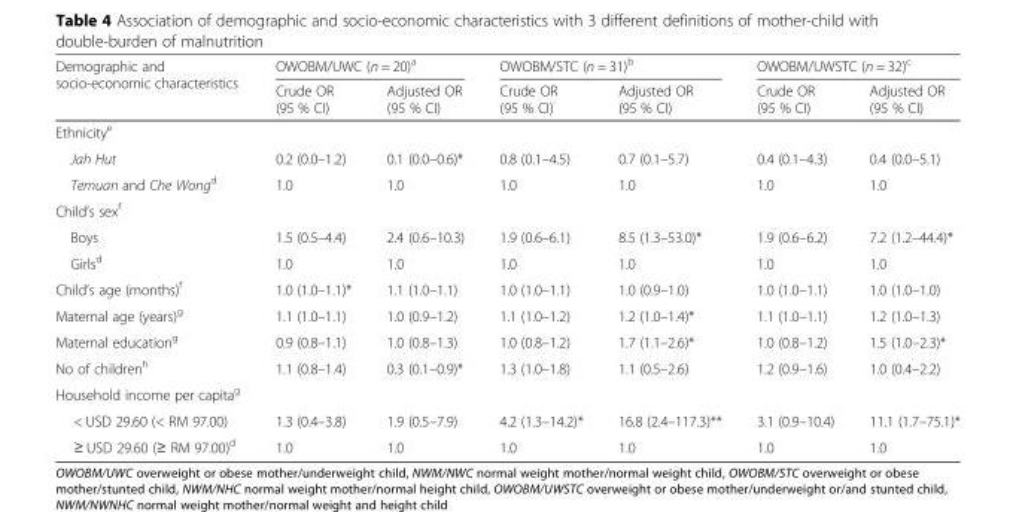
<table><thead><tr><td rowspan="2">Demographic and socio-economic characteristics</td><td colspan="2">OWOBM/UWC (n = 20)<sup>a</sup></td><td colspan="2">OWOBM/STC (n = 31)<sup>b</sup></td><td colspan="2">OWOBM/UWSTC (n = 32)<sup>c</sup></td></tr><tr><td>Crude OR (95 % CI)</td><td>Adjusted OR (95 % CI)</td><td>Crude OR (95 % CI)</td><td>Adjusted OR (95 % CI)</td><td>Crude OR (95 % CI)</td><td>Adjusted OR (95 % CI)</td></tr></thead><tbody><tr><td colspan="7">Ethnicity<sup>e</sup></td></tr><tr><td>Jah Hut</td><td>0.2 (0.0–1.2)</td><td>0.1 (0.0–0.6)*</td><td>0.8 (0.1–4.5)</td><td>0.7 (0.1–5.7)</td><td>0.4 (0.1–4.3)</td><td>0.4 (0.0–5.1)</td></tr><tr><td>Temuan and Che Wong<sup>d</sup></td><td>1.0</td><td>1.0</td><td>1.0</td><td>1.0</td><td>1.0</td><td>1.0</td></tr><tr><td colspan="7">Child’s sex<sup>f</sup></td></tr><tr><td>Boys</td><td>1.5 (0.5–4.4)</td><td>2.4 (0.6–10.3)</td><td>1.9 (0.6–6.1)</td><td>8.5 (1.3–53.0)*</td><td>1.9 (0.6–6.2)</td><td>7.2 (1.2–44.4)*</td></tr><tr><td>Girls<sup>d</sup></td><td>1.0</td><td>1.0</td><td>1.0</td><td>1.0</td><td>1.0</td><td>1.0</td></tr><tr><td>Child’s age (months)<sup>f</sup></td><td>1.0 (1.0–1.1)*</td><td>1.1 (1.0–1.1)</td><td>1.0 (1.0–1.1)</td><td>1.0 (0.9–1.0)</td><td>1.0 (1.0–1.1)</td><td>1.0 (1.0–1.0)</td></tr><tr><td>Maternal age (years)<sup>g</sup></td><td>1.1 (1.0–1.1)</td><td>1.0 (0.9–1.2)</td><td>1.1 (1.0–1.2)</td><td>1.2 (1.0–1.4)*</td><td>1.1 (1.0–1.1)</td><td>1.2 (1.0–1.3)</td></tr><tr><td>Maternal education<sup>g</sup></td><td>0.9 (0.8–1.1)</td><td>1.0 (0.8–1.3)</td><td>1.0 (0.8–1.2)</td><td>1.7 (1.1–2.6)*</td><td>1.0 (0.8–1.2)</td><td>1.5 (1.0–2.3)*</td></tr><tr><td>No of children<sup>h</sup></td><td>1.1 (0.8–1.4)</td><td>0.3 (0.1–0.9)*</td><td>1.3 (1.0–1.8)</td><td>1.1 (0.5–2.6)</td><td>1.2 (0.9–1.6)</td><td>1.0 (0.4–2.2)</td></tr><tr><td colspan="7">Household income per capita<sup>g</sup></td></tr><tr><td>&lt; USD 29.60 (&lt; RM 97.00)</td><td>1.3 (0.4–3.8)</td><td>1.9 (0.5–7.9)</td><td>4.2 (1.3–14.2)*</td><td>16.8 (2.4–117.3)**</td><td>3.1 (0.9–10.4)</td><td>11.1 (1.7–75.1)*</td></tr><tr><td>≥ USD 29.60 (≥ RM 97.00)<sup>d</sup></td><td>1.0</td><td>1.0</td><td>1.0</td><td>1.0</td><td>1.0</td><td>1.0</td></tr></tbody></table>